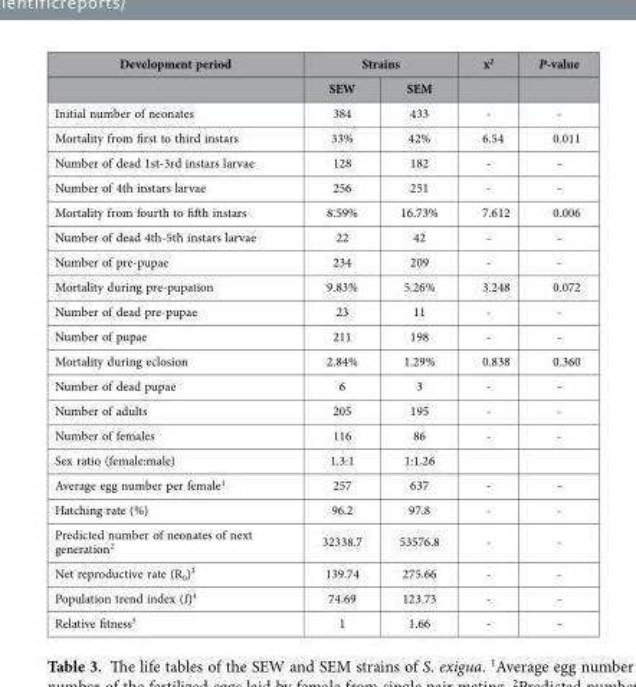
<table><thead><tr><td rowspan="2">Development period</td><td colspan="2">Strains</td><td rowspan="2">x<sup>2</sup></td><td rowspan="2">P-value</td></tr><tr><td>SEW</td><td>SEM</td></tr></thead><tbody><tr><td>Initial number of neonates</td><td>384</td><td>433</td><td>-</td><td>-</td></tr><tr><td>Mortality from first to third instars</td><td>33%</td><td>42%</td><td>6.54</td><td>0.011</td></tr><tr><td>Number of dead 1st-3rd instars larvae</td><td>128</td><td>182</td><td>-</td><td>-</td></tr><tr><td>Number of 4th instars larvae</td><td>256</td><td>251</td><td>-</td><td>-</td></tr><tr><td>Mortality from fourth to fifth instars</td><td>8.59%</td><td>16.73%</td><td>7.612</td><td>0.006</td></tr><tr><td>Number of dead 4th-5th instars larvae</td><td>22</td><td>42</td><td>-</td><td>-</td></tr><tr><td>Number of pre-pupae</td><td>234</td><td>209</td><td>-</td><td>-</td></tr><tr><td>Mortality during pre-pupation</td><td>9.83%</td><td>5.26%</td><td>3.248</td><td>0.072</td></tr><tr><td>Number of dead pre-pupae</td><td>23</td><td>11</td><td>-</td><td>-</td></tr><tr><td>Number of pupae</td><td>211</td><td>198</td><td>-</td><td>-</td></tr><tr><td>Mortality during eclosion</td><td>2.84%</td><td>1.29%</td><td>0.838</td><td>0.360</td></tr><tr><td>Number of dead pupae</td><td>6</td><td>3</td><td>-</td><td>-</td></tr><tr><td>Number of adults</td><td>205</td><td>195</td><td>-</td><td>-</td></tr><tr><td>Number of females</td><td>116</td><td>86</td><td>-</td><td>-</td></tr><tr><td>Sex ratio (female:male)</td><td>1.3:1</td><td>1:1.26</td><td></td><td></td></tr><tr><td>Average egg number per female<sup>1</sup></td><td>257</td><td>637</td><td>-</td><td>-</td></tr><tr><td>Hatching rate (%)</td><td>96.2</td><td>97.8</td><td>-</td><td>-</td></tr><tr><td>Predicted number of neonates of next generation<sup>2</sup></td><td>32338.7</td><td>53576.8</td><td>-</td><td>-</td></tr><tr><td>Net reproductive rate (R<sub>0</sub>)<sup>3</sup></td><td>139.74</td><td>275.66</td><td>-</td><td>-</td></tr><tr><td>Population trend index (I)<sup>4</sup></td><td>74.69</td><td>123.73</td><td>-</td><td>-</td></tr><tr><td>Relative fitness<sup>5</sup></td><td>1</td><td>1.66</td><td>-</td><td>-</td></tr></tbody></table>